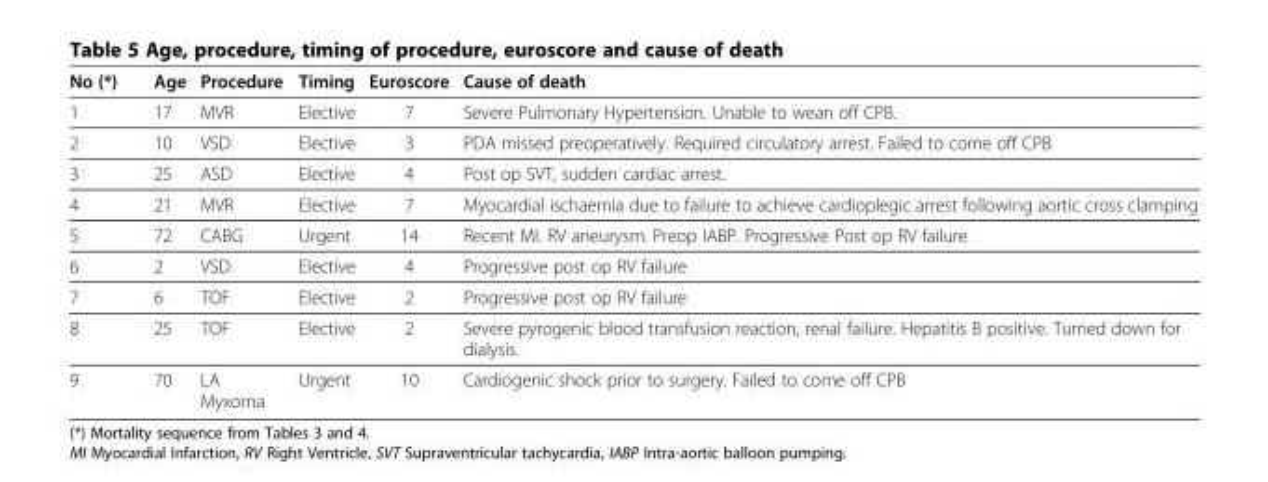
<table><thead><tr><td>No (*)</td><td>Age</td><td>Procedure</td><td>Timing</td><td>Euroscore</td><td>Cause of death</td></tr></thead><tbody><tr><td>1</td><td>17</td><td>MVR</td><td>Elective</td><td>7</td><td>Severe Pulmonary Hypertension. Unable to wean off CPB.</td></tr><tr><td>2</td><td>10</td><td>VSD</td><td>Elective</td><td>3</td><td>PDA missed preoperatively. Required circulatory arrest. Failed to come off CPB</td></tr><tr><td>3</td><td>25</td><td>ASD</td><td>Elective</td><td>4</td><td>Post op SVT, sudden cardiac arrest.</td></tr><tr><td>4</td><td>21</td><td>MVR</td><td>Elective</td><td>7</td><td>Myocardial ischaemia due to failure to achieve cardioplegic arrest following aortic cross clamping</td></tr><tr><td>5</td><td>72</td><td>CABG</td><td>Urgent</td><td>14</td><td>Recent MI. RV aneurysm. Preop IABP. Progressive Post op RV failure</td></tr><tr><td>6</td><td>2</td><td>VSD</td><td>Elective</td><td>4</td><td>Progressive post op RV failure</td></tr><tr><td>7</td><td>6</td><td>TOF</td><td>Elective</td><td>2</td><td>Progressive post op RV failure</td></tr><tr><td>8</td><td>25</td><td>TOF</td><td>Elective</td><td>2</td><td>Severe pyrogenic blood transfusion reaction, renal failure. Hepatitis B positive. Turned down for dialysis.</td></tr><tr><td>9</td><td>70</td><td>LA Myxoma</td><td>Urgent</td><td>10</td><td>Cardiogenic shock prior to surgery. Failed to come off CPB</td></tr></tbody></table>